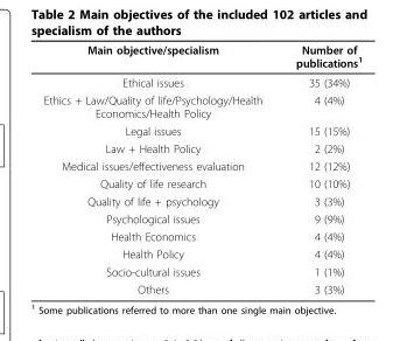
<table><thead><tr><td>Main objective/specialism</td><td>Number of publications<sup>1</sup></td></tr></thead><tbody><tr><td>Ethical issues</td><td>35 (34%)</td></tr><tr><td>Ethics + Law/Quality of life/Psychology/Health Economics/Health Policy</td><td>4 (4%)</td></tr><tr><td>Legal issues</td><td>15 (15%)</td></tr><tr><td>Law + Health Policy</td><td>2 (2%)</td></tr><tr><td>Medical issues/effectiveness evaluation</td><td>12 (12%)</td></tr><tr><td>Quality of life research</td><td>10 (10%)</td></tr><tr><td>Quality of life + psychology</td><td>3 (3%)</td></tr><tr><td>Psychological issues</td><td>9 (9%)</td></tr><tr><td>Health Economics</td><td>4 (4%)</td></tr><tr><td>Health Policy</td><td>4 (4%)</td></tr><tr><td>Socio-cultural issues</td><td>1 (1%)</td></tr><tr><td>Others</td><td>3 (3%)</td></tr></tbody></table>